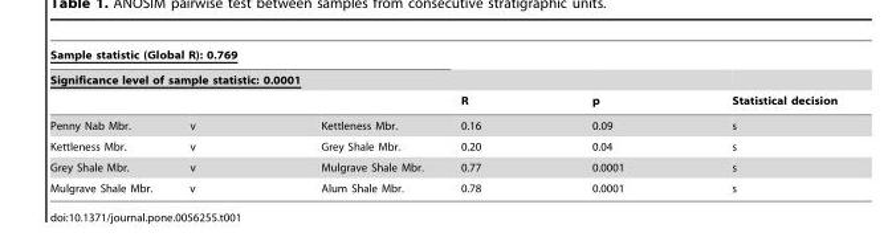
<table><thead><tr><td rowspan="2" colspan="3">Sample statistic (Global R): 0.769 Significance level of sample statistic: 0.0001</td><td rowspan="3">R</td><td rowspan="3">p</td><td rowspan="3">Statistical decision</td></tr><tr></tr><tr><td></td><td></td><td></td></tr></thead><tbody><tr><td>Penny Nab Mbr.</td><td>v</td><td>Kettleness Mbr.</td><td>0.16</td><td>0.09</td><td>s</td></tr><tr><td>Kettleness Mbr.</td><td>v</td><td>Grey Shale Mbr.</td><td>0.20</td><td>0.04</td><td>s</td></tr><tr><td>Grey Shale Mbr.</td><td>v</td><td>Mulgrave Shale Mbr.</td><td>0.77</td><td>0.0001</td><td>s</td></tr><tr><td>Mulgrave Shale Mbr.</td><td>v</td><td>Alum Shale Mbr.</td><td>0.78</td><td>0.0001</td><td>s</td></tr></tbody></table>